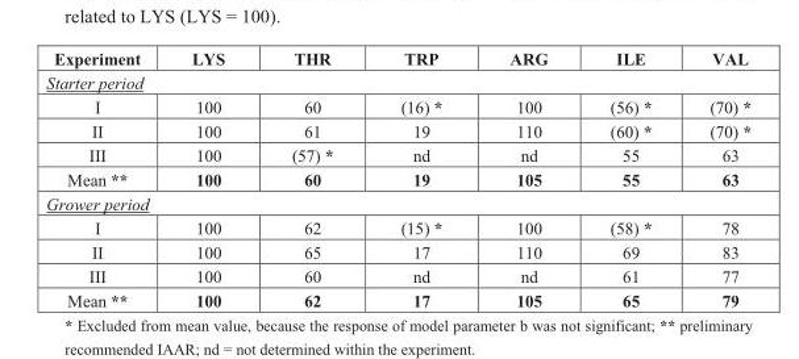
<table><thead><tr><td>Experiment</td><td>LYS</td><td>THR</td><td>TRP</td><td>ARG</td><td>ILE</td><td>VAL</td></tr></thead><tbody><tr><td colspan="7">Starter period</td></tr><tr><td>I</td><td>100</td><td>60</td><td>(16) *</td><td>100</td><td>(56) *</td><td>(70) *</td></tr><tr><td>II</td><td>100</td><td>61</td><td>19</td><td>110</td><td>(60) *</td><td>(70) *</td></tr><tr><td>III</td><td>100</td><td>(57) *</td><td>nd</td><td>nd</td><td>55</td><td>63</td></tr><tr><td>Mean **</td><td>100</td><td>60</td><td>19</td><td>105</td><td>55</td><td>63</td></tr><tr><td colspan="7">Grower period</td></tr><tr><td>I</td><td>100</td><td>62</td><td>(15) *</td><td>100</td><td>(58) *</td><td>78</td></tr><tr><td>II</td><td>100</td><td>65</td><td>17</td><td>110</td><td>69</td><td>83</td></tr><tr><td>III</td><td>100</td><td>60</td><td>nd</td><td>nd</td><td>61</td><td>77</td></tr><tr><td>Mean **</td><td>100</td><td>62</td><td>17</td><td>105</td><td>65</td><td>79</td></tr></tbody></table>